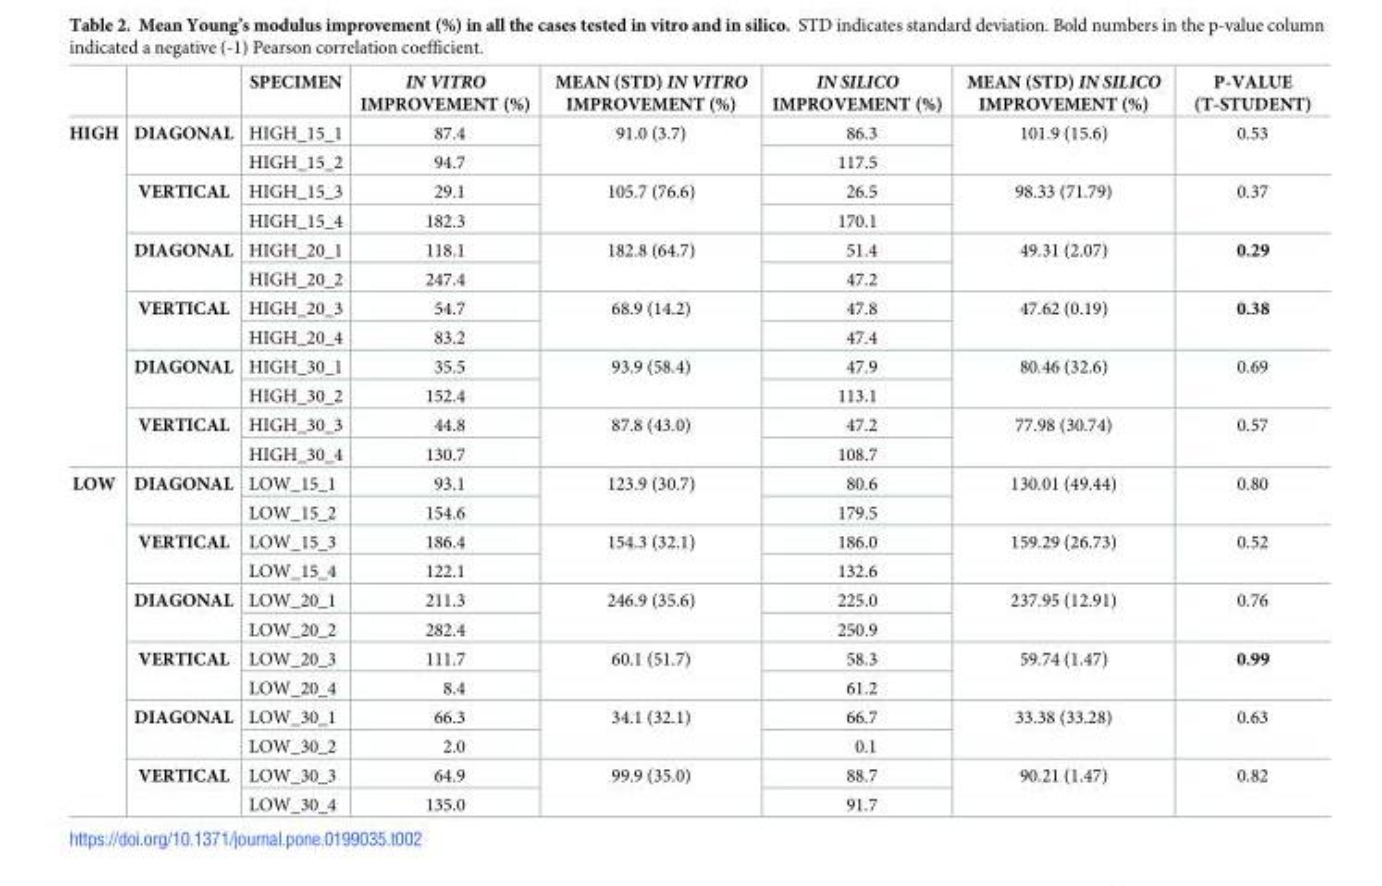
<table><thead><tr><td></td><td></td><td>SPECIMEN</td><td>IN VITRO IMPROVEMENT (%)</td><td>MEAN (STD) IN VITRO IMPROVEMENT (%)</td><td>IN SILICO IMPROVEMENT (%)</td><td>MEAN (STD) IN SILICO IMPROVEMENT (%)</td><td>P-VALUE (T-STUDENT)</td></tr></thead><tbody><tr><td rowspan="12">HIGH</td><td rowspan="2">DIAGONAL</td><td>HIGH_15_1</td><td>87.4</td><td rowspan="2">91.0 (3.7)</td><td>86.3</td><td rowspan="2">101.9 (15.6)</td><td rowspan="2">0.53</td></tr><tr><td>HIGH_15_2</td><td>94.7</td><td>117.5</td></tr><tr><td rowspan="2">VERTICAL</td><td>HIGH_15_3</td><td>29.1</td><td rowspan="2">105.7 (76.6)</td><td>26.5</td><td rowspan="2">98.33 (71.79)</td><td rowspan="2">0.37</td></tr><tr><td>HIGH_15_4</td><td>182.3</td><td>170.1</td></tr><tr><td rowspan="2">DIAGONAL</td><td>HIGH_20_1</td><td>118.1</td><td rowspan="2">182.8 (64.7)</td><td>51.4</td><td rowspan="2">49.31 (2.07)</td><td rowspan="2">0.29</td></tr><tr><td>HIGH_20_2</td><td>247.4</td><td>47.2</td></tr><tr><td rowspan="2">VERTICAL</td><td>HIGH_20_3</td><td>54.7</td><td rowspan="2">68.9 (14.2)</td><td>47.8</td><td rowspan="2">47.62 (0.19)</td><td rowspan="2">0.38</td></tr><tr><td>HIGH_20_4</td><td>83.2</td><td>47.4</td></tr><tr><td rowspan="2">DIAGONAL</td><td>HIGH_30_1</td><td>35.5</td><td rowspan="2">93.9 (58.4)</td><td>47.9</td><td rowspan="2">80.46 (32.6)</td><td rowspan="2">0.69</td></tr><tr><td>HIGH_30_2</td><td>152.4</td><td>113.1</td></tr><tr><td rowspan="2">VERTICAL</td><td>HIGH_30_3</td><td>44.8</td><td rowspan="2">87.8 (43.0)</td><td>47.2</td><td rowspan="2">77.98 (30.74)</td><td rowspan="2">0.57</td></tr><tr><td>HIGH_30_4</td><td>130.7</td><td>108.7</td></tr><tr><td rowspan="12">LOW</td><td rowspan="2">DIAGONAL</td><td>LOW_15_1</td><td>93.1</td><td rowspan="2">123.9 (30.7)</td><td>80.6</td><td rowspan="2">130.01 (49.44)</td><td rowspan="2">0.80</td></tr><tr><td>LOW_15_2</td><td>154.6</td><td>179.5</td></tr><tr><td rowspan="2">VERTICAL</td><td>LOW_15_3</td><td>186.4</td><td rowspan="2">154.3 (32.1)</td><td>186.0</td><td rowspan="2">159.29 (26.73)</td><td rowspan="2">0.52</td></tr><tr><td>LOW_15_4</td><td>122.1</td><td>132.6</td></tr><tr><td rowspan="2">DIAGONAL</td><td>LOW_20_1</td><td>211.3</td><td rowspan="2">246.9 (35.6)</td><td>225.0</td><td rowspan="2">237.95 (12.91)</td><td rowspan="2">0.76</td></tr><tr><td>LOW_20_2</td><td>282.4</td><td>250.9</td></tr><tr><td rowspan="2">VERTICAL</td><td>LOW_20_3</td><td>111.7</td><td rowspan="2">60.1 (51.7)</td><td>58.3</td><td rowspan="2">59.74 (1.47)</td><td rowspan="2">0.99</td></tr><tr><td>LOW_20_4</td><td>8.4</td><td>61.2</td></tr><tr><td rowspan="2">DIAGONAL</td><td>LOW_30_1</td><td>66.3</td><td rowspan="2">34.1 (32.1)</td><td>66.7</td><td rowspan="2">33.38 (33.28)</td><td rowspan="2">0.63</td></tr><tr><td>LOW_30_2</td><td>2.0</td><td>0.1</td></tr><tr><td rowspan="2">VERTICAL</td><td>LOW_30_3</td><td>64.9</td><td rowspan="2">99.9 (35.0)</td><td>88.7</td><td rowspan="2">90.21 (1.47)</td><td rowspan="2">0.82</td></tr><tr><td>LOW_30_4</td><td>135.0</td><td>91.7</td></tr></tbody></table>